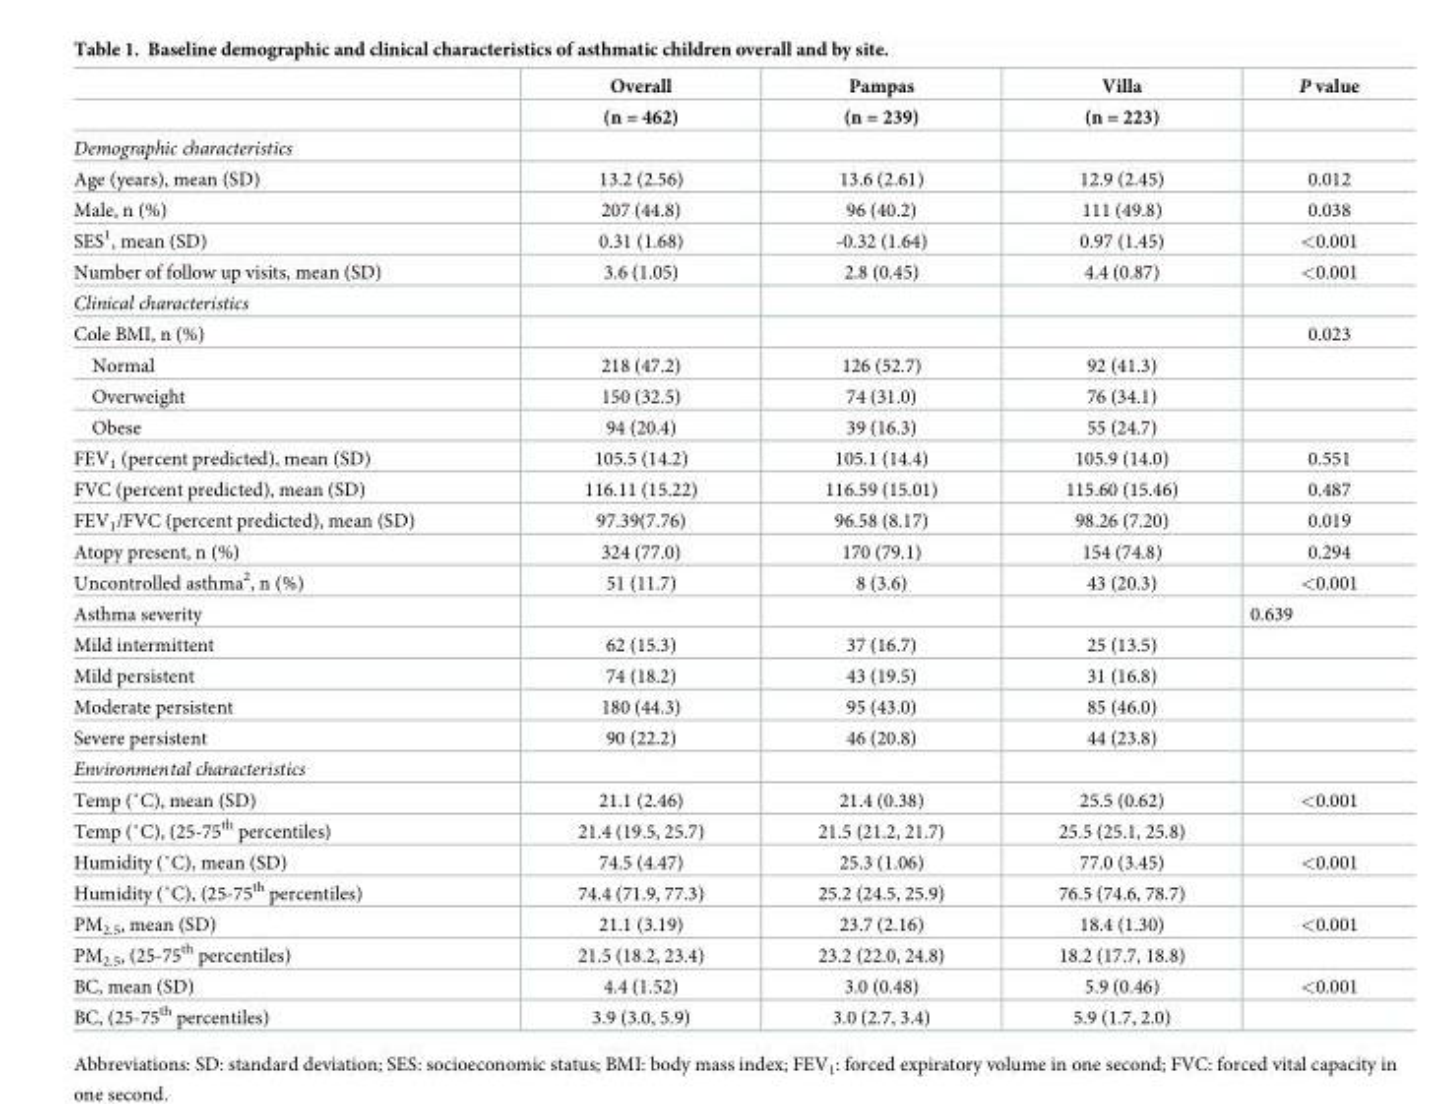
<table><thead><tr><td rowspan="2"></td><td rowspan="2">Overall (n = 462)</td><td rowspan="2">Pampas (n = 239)</td><td rowspan="2">Villa (n = 223)</td><td rowspan="2">P value</td></tr><tr></tr></thead><tbody><tr><td colspan="5">Demographic characteristics</td></tr><tr><td>Age (years), mean (SD)</td><td>13.2 (2.56)</td><td>13.6 (2.61)</td><td>12.9 (2.45)</td><td>0.012</td></tr><tr><td>Male, n (%)</td><td>207 (44.8)</td><td>96 (40.2)</td><td>111 (49.8)</td><td>0.038</td></tr><tr><td>SES<sup>1</sup>, mean (SD)</td><td>0.31 (1.68)</td><td>-0.32 (1.64)</td><td>0.97 (1.45)</td><td>&lt;0.001</td></tr><tr><td>Number of follow up visits, mean (SD)</td><td>3.6 (1.05)</td><td>2.8 (0.45)</td><td>4.4 (0.87)</td><td>&lt;0.001</td></tr><tr><td colspan="5">Clinical characteristics</td></tr><tr><td>Cole BMI, n (%)</td><td></td><td></td><td></td><td>0.023</td></tr><tr><td>Normal</td><td>218 (47.2)</td><td>126 (52.7)</td><td>92 (41.3)</td><td></td></tr><tr><td>Overweight</td><td>150 (32.5)</td><td>74 (31.0)</td><td>76 (34.1)</td><td></td></tr><tr><td>Obese</td><td>94 (20.4)</td><td>39 (16.3)</td><td>55 (24.7)</td><td></td></tr><tr><td>FEV<sub>1</sub> (percent predicted), mean (SD)</td><td>105.5 (14.2)</td><td>105.1 (14.4)</td><td>105.9 (14.0)</td><td>0.551</td></tr><tr><td>FVC (percent predicted), mean (SD)</td><td>116.11 (15.22)</td><td>116.59 (15.01)</td><td>115.60 (15.46)</td><td>0.487</td></tr><tr><td>FEV<sub>1</sub>/FVC (percent predicted), mean (SD)</td><td>97.39(7.76)</td><td>96.58 (8.17)</td><td>98.26 (7.20)</td><td>0.019</td></tr><tr><td>Atopy present, n (%)</td><td>324 (77.0)</td><td>170 (79.1)</td><td>154 (74.8)</td><td>0.294</td></tr><tr><td>Uncontrolled asthma<sup>2</sup>, n (%)</td><td>51 (11.7)</td><td>8 (3.6)</td><td>43 (20.3)</td><td>&lt;0.001</td></tr><tr><td>Asthma severity</td><td></td><td></td><td></td><td>0.639</td></tr><tr><td>Mild intermittent</td><td>62 (15.3)</td><td>37 (16.7)</td><td>25 (13.5)</td><td></td></tr><tr><td>Mild persistent</td><td>74 (18.2)</td><td>43 (19.5)</td><td>31 (16.8)</td><td></td></tr><tr><td>Moderate persistent</td><td>180 (44.3)</td><td>95 (43.0)</td><td>85 (46.0)</td><td></td></tr><tr><td>Severe persistent</td><td>90 (22.2)</td><td>46 (20.8)</td><td>44 (23.8)</td><td></td></tr><tr><td colspan="5">Environmental characteristics</td></tr><tr><td>Temp (˚C), mean (SD)</td><td>21.1 (2.46)</td><td>21.4 (0.38)</td><td>25.5 (0.62)</td><td>&lt;0.001</td></tr><tr><td>Temp (˚C), (25-75th percentiles)</td><td>21.4 (19.5, 25.7)</td><td>21.5 (21.2, 21.7)</td><td>25.5 (25.1, 25.8)</td><td></td></tr><tr><td>Humidity (˚C), mean (SD)</td><td>74.5 (4.47)</td><td>25.3 (1.06)</td><td>77.0 (3.45)</td><td>&lt;0.001</td></tr><tr><td>Humidity (˚C), (25-75th percentiles)</td><td>74.4 (71.9, 77.3)</td><td>25.2 (24.5, 25.9)</td><td>76.5 (74.6, 78.7)</td><td></td></tr><tr><td>PM<sub>2.5</sub>, mean (SD)</td><td>21.1 (3.19)</td><td>23.7 (2.16)</td><td>18.4 (1.30)</td><td>&lt;0.001</td></tr><tr><td>PM<sub>2.5</sub>, (25-75<sup>th</sup> percentiles)</td><td>21.5 (18.2, 23.4)</td><td>23.2 (22.0, 24.8)</td><td>18.2 (17.7, 18.8)</td><td></td></tr><tr><td>BC, mean (SD)</td><td>4.4 (1.52)</td><td>3.0 (0.48)</td><td>5.9 (0.46)</td><td>&lt;0.001</td></tr><tr><td>BC, (25-75<sup>th</sup> percentiles)</td><td>3.9 (3.0, 5.9)</td><td>3.0 (2.7, 3.4)</td><td>5.9 (1.7, 2.0)</td><td></td></tr></tbody></table>